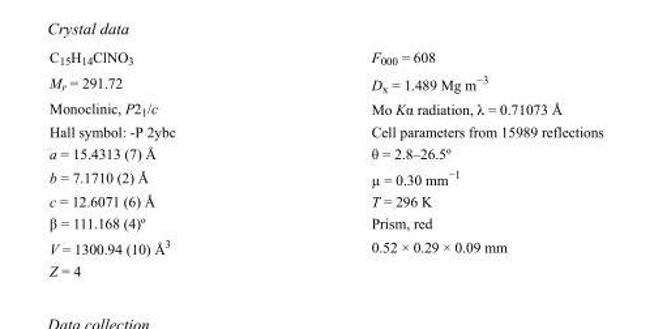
<table><tbody><tr><td>C<sub>15</sub>H<sub>14</sub>ClNO<sub>3</sub></td><td>F000 = 608</td></tr><tr><td>M<sub>r</sub> = 291.72</td><td>D<sub>x</sub> = 1.489 Mg m<sup>−3</sup></td></tr><tr><td>Monoclinic, P2<sub>1</sub>/c</td><td>Mo Kα radiation, λ = 0.71073 Å</td></tr><tr><td>Hall symbol: -P 2ybc</td><td>Cell parameters from 15989 reflections</td></tr><tr><td>a = 15.4313 (7) Å</td><td>θ = 2.8–26.5º</td></tr><tr><td>b = 7.1710 (2) Å</td><td>µ = 0.30 mm<sup>−1</sup></td></tr><tr><td>c = 12.6071 (6) Å</td><td>T = 296 K</td></tr><tr><td>β = 111.168 (4)º</td><td>Prism, red</td></tr><tr><td>V = 1300.94 (10) Å<sup>3</sup></td><td>0.52 × 0.29 × 0.09 mm</td></tr><tr><td>Z = 4</td><td></td></tr></tbody></table>